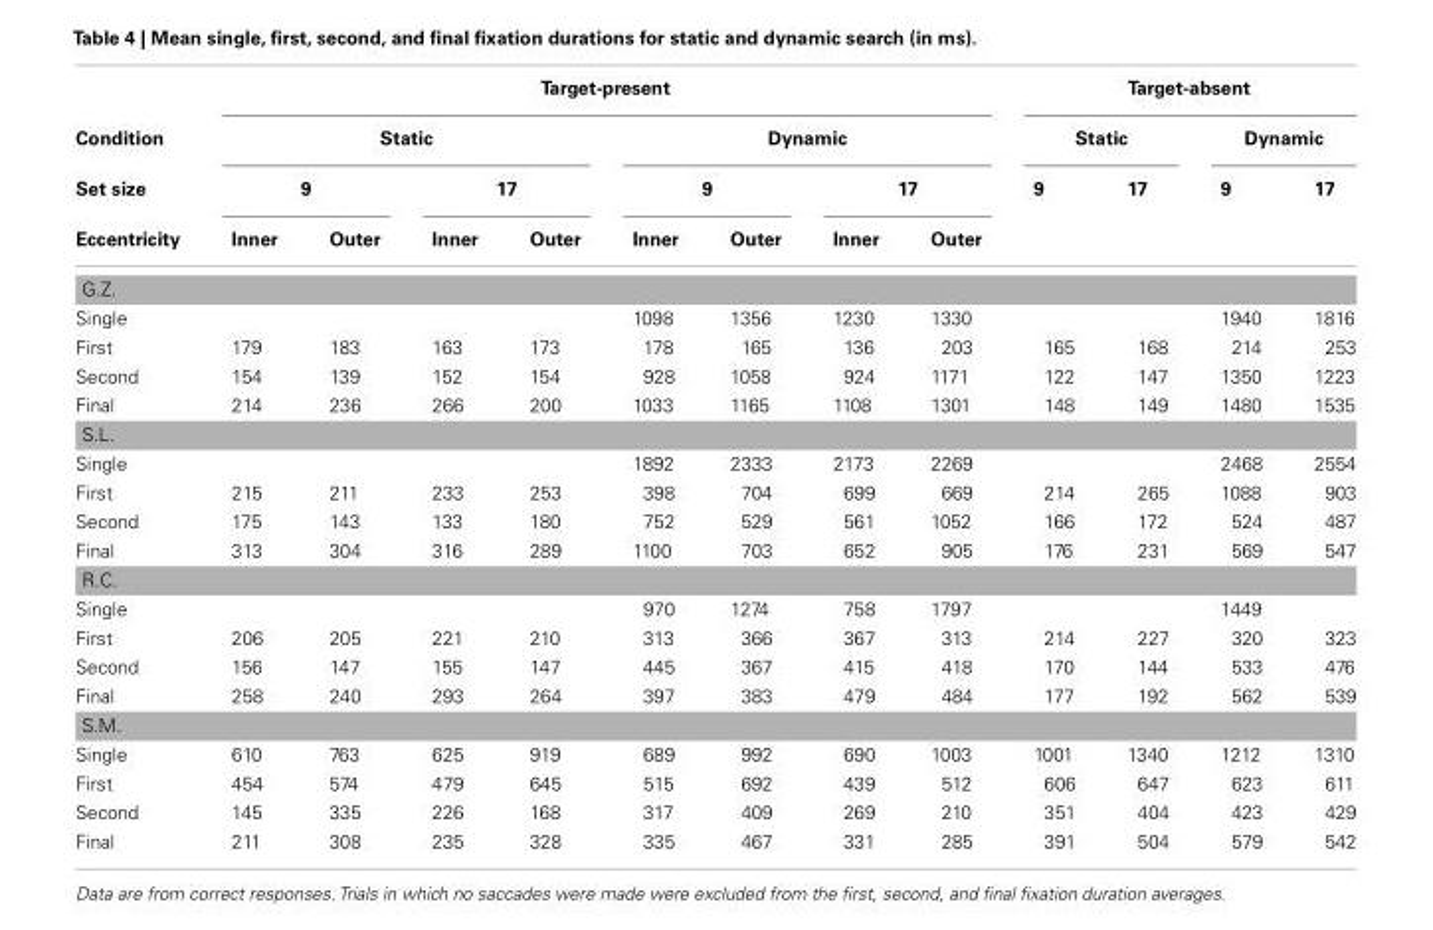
<table><thead><tr><td rowspan="4">Condition Set size Eccentricity</td><td colspan="8">Target-present</td><td colspan="4">Target-absent</td></tr><tr><td colspan="4">Static</td><td colspan="4">Dynamic</td><td colspan="2">Static</td><td colspan="2">Dynamic</td></tr><tr><td colspan="2">9</td><td colspan="2">17</td><td colspan="2">9</td><td colspan="2">17</td><td rowspan="2">9</td><td rowspan="2">17</td><td rowspan="2">9</td><td rowspan="2">17</td></tr><tr><td>Inner</td><td>Outer</td><td>Inner</td><td>Outer</td><td>Inner</td><td>Outer</td><td>Inner</td><td>Outer</td></tr></thead><tbody><tr><td colspan="13">G.Z.</td></tr><tr><td>Single</td><td></td><td></td><td></td><td></td><td>1098</td><td>1356</td><td>1230</td><td>1330</td><td></td><td></td><td>1940</td><td>1816</td></tr><tr><td>First</td><td>179</td><td>183</td><td>163</td><td>173</td><td>178</td><td>165</td><td>136</td><td>203</td><td>165</td><td>168</td><td>214</td><td>253</td></tr><tr><td>Second</td><td>154</td><td>139</td><td>152</td><td>154</td><td>928</td><td>1058</td><td>924</td><td>1171</td><td>122</td><td>147</td><td>1350</td><td>1223</td></tr><tr><td>Final</td><td>214</td><td>236</td><td>266</td><td>200</td><td>1033</td><td>1165</td><td>1108</td><td>1301</td><td>148</td><td>149</td><td>1480</td><td>1535</td></tr><tr><td colspan="13">S.L.</td></tr><tr><td>Single</td><td></td><td></td><td></td><td></td><td>1892</td><td>2333</td><td>2173</td><td>2269</td><td></td><td></td><td>2468</td><td>2554</td></tr><tr><td>First</td><td>215</td><td>211</td><td>233</td><td>253</td><td>398</td><td>704</td><td>699</td><td>669</td><td>214</td><td>265</td><td>1088</td><td>903</td></tr><tr><td>Second</td><td>175</td><td>143</td><td>133</td><td>180</td><td>752</td><td>529</td><td>561</td><td>1052</td><td>166</td><td>172</td><td>524</td><td>487</td></tr><tr><td>Final</td><td>313</td><td>304</td><td>316</td><td>289</td><td>1100</td><td>703</td><td>652</td><td>905</td><td>176</td><td>231</td><td>569</td><td>547</td></tr><tr><td colspan="13">R.C.</td></tr><tr><td>Single</td><td></td><td></td><td></td><td></td><td>970</td><td>1274</td><td>758</td><td>1797</td><td></td><td></td><td>1449</td><td></td></tr><tr><td>First</td><td>206</td><td>205</td><td>221</td><td>210</td><td>313</td><td>366</td><td>367</td><td>313</td><td>214</td><td>227</td><td>320</td><td>323</td></tr><tr><td>Second</td><td>156</td><td>147</td><td>155</td><td>147</td><td>445</td><td>367</td><td>415</td><td>418</td><td>170</td><td>144</td><td>533</td><td>476</td></tr><tr><td>Final</td><td>258</td><td>240</td><td>293</td><td>264</td><td>397</td><td>383</td><td>479</td><td>484</td><td>177</td><td>192</td><td>562</td><td>539</td></tr><tr><td colspan="13">S.M.</td></tr><tr><td>Single</td><td>610</td><td>763</td><td>625</td><td>919</td><td>689</td><td>992</td><td>690</td><td>1003</td><td>1001</td><td>1340</td><td>1212</td><td>1310</td></tr><tr><td>First</td><td>454</td><td>574</td><td>479</td><td>645</td><td>515</td><td>692</td><td>439</td><td>512</td><td>606</td><td>647</td><td>623</td><td>611</td></tr><tr><td>Second</td><td>145</td><td>335</td><td>226</td><td>168</td><td>317</td><td>409</td><td>269</td><td>210</td><td>351</td><td>404</td><td>423</td><td>429</td></tr><tr><td>Final</td><td>211</td><td>308</td><td>235</td><td>328</td><td>335</td><td>467</td><td>331</td><td>285</td><td>391</td><td>504</td><td>579</td><td>542</td></tr></tbody></table>